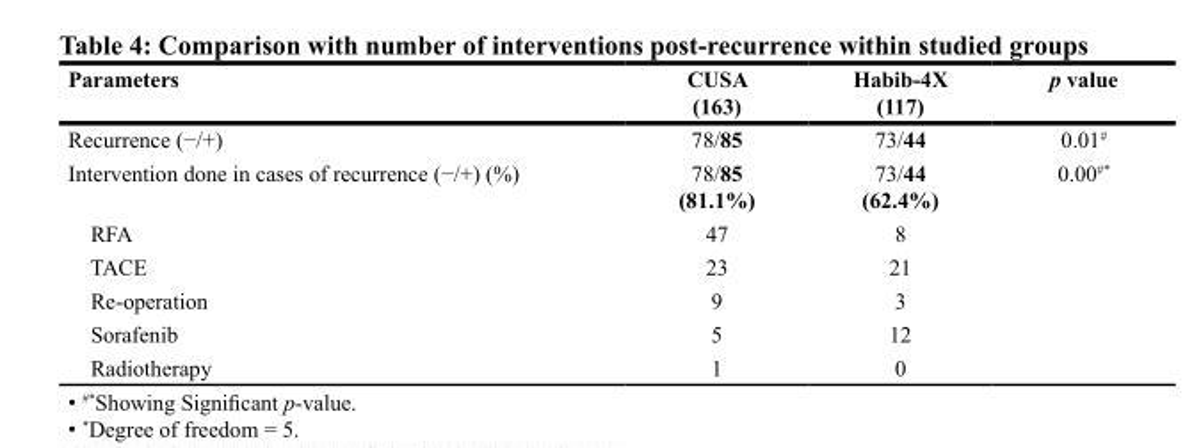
<table><thead><tr><td>Parameters</td><td>CUSA (163)</td><td>Habib-4X (117)</td><td>p value</td></tr></thead><tbody><tr><td>Recurrence (−/+)</td><td>78/85</td><td>73/44</td><td>0.01<sup>#</sup></td></tr><tr><td>Intervention done in cases of recurrence (−/+) (%)</td><td>78/85 (81.1%)</td><td>73/44 (62.4%)</td><td>0.00<sup>#*</sup></td></tr><tr><td>RFA</td><td>47</td><td>8</td><td rowspan="5"></td></tr><tr><td>TACE</td><td>23</td><td>21</td></tr><tr><td>Re-operation</td><td>9</td><td>3</td></tr><tr><td>Sorafenib</td><td>5</td><td>12</td></tr><tr><td>Radiotherapy</td><td>1</td><td>0</td></tr></tbody></table>